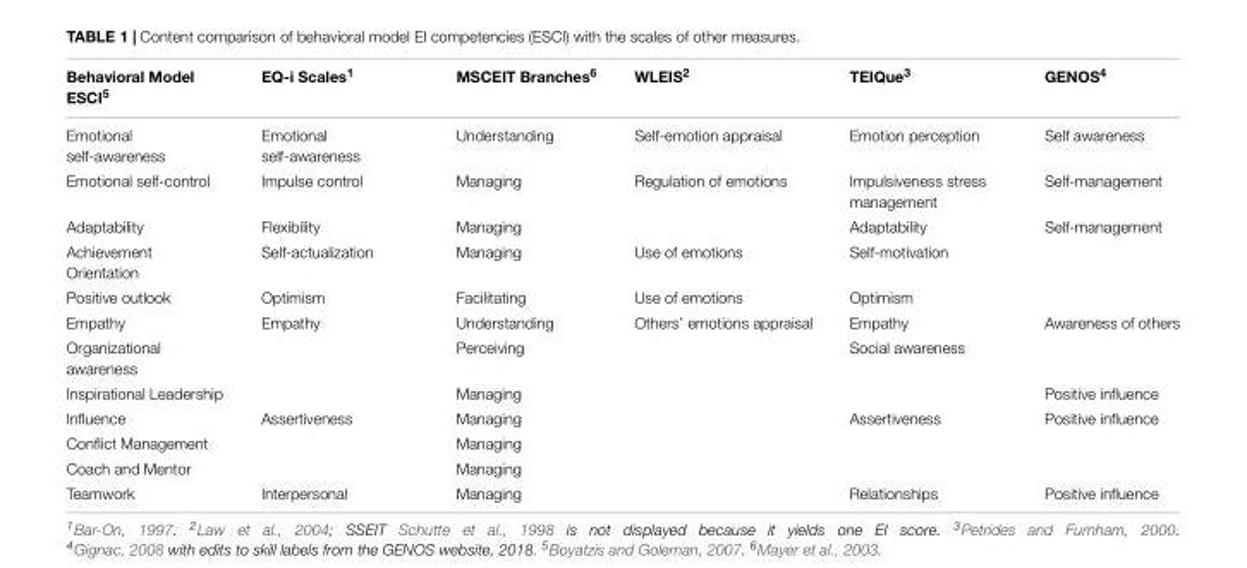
<table><thead><tr><td>Behavioral Model ESCI<sup>5</sup></td><td>EQ-i Scales<sup>1</sup></td><td>MSCEIT Branches<sup>6</sup></td><td>WLEIS<sup>2</sup></td><td>TEIQue<sup>3</sup></td><td>GENOS<sup>4</sup></td></tr></thead><tbody><tr><td>Emotional self-awareness</td><td>Emotional self-awareness</td><td>Understanding</td><td>Self-emotion appraisal</td><td>Emotion perception</td><td>Self awareness</td></tr><tr><td>Emotional self-control</td><td>Impulse control</td><td>Managing</td><td>Regulation of emotions</td><td>Impulsiveness stress management</td><td>Self-management</td></tr><tr><td>Adaptability</td><td>Flexibility</td><td>Managing</td><td></td><td>Adaptability</td><td>Self-management</td></tr><tr><td>Achievement Orientation</td><td>Self-actualization</td><td>Managing</td><td>Use of emotions</td><td>Self-motivation</td><td></td></tr><tr><td>Positive outlook</td><td>Optimism</td><td>Facilitating</td><td>Use of emotions</td><td>Optimism</td><td></td></tr><tr><td>Empathy</td><td>Empathy</td><td>Understanding</td><td>Others’ emotions appraisal</td><td>Empathy</td><td>Awareness of others</td></tr><tr><td>Organizational awareness</td><td></td><td>Perceiving</td><td></td><td>Social awareness</td><td></td></tr><tr><td>Inspirational Leadership</td><td></td><td>Managing</td><td></td><td></td><td>Positive influence</td></tr><tr><td>Influence</td><td>Assertiveness</td><td>Managing</td><td></td><td>Assertiveness</td><td>Positive influence</td></tr><tr><td>Conflict Management</td><td></td><td>Managing</td><td></td><td></td><td></td></tr><tr><td>Coach and Mentor</td><td></td><td>Managing</td><td></td><td></td><td></td></tr><tr><td>Teamwork</td><td>Interpersonal</td><td>Managing</td><td></td><td>Relationships</td><td>Positive influence</td></tr></tbody></table>